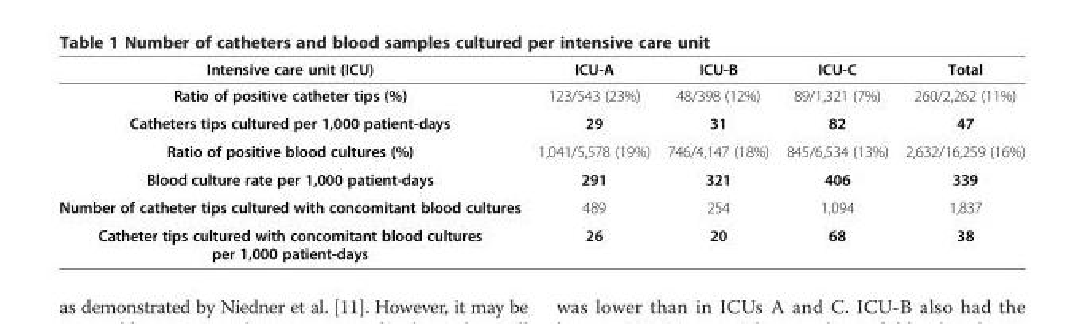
<table><thead><tr><td>Intensive care unit (ICU)</td><td>ICU-A</td><td>ICU-B</td><td>ICU-C</td><td>Total</td></tr></thead><tbody><tr><td>Ratio of positive catheter tips (%)</td><td>123/543 (23%)</td><td>48/398 (12%)</td><td>89/1,321 (7%)</td><td>260/2,262 (11%)</td></tr><tr><td>Catheters tips cultured per 1,000 patient-days</td><td>29</td><td>31</td><td>82</td><td>47</td></tr><tr><td>Ratio of positive blood cultures (%)</td><td>1,041/5,578 (19%)</td><td>746/4,147 (18%)</td><td>845/6,534 (13%)</td><td>2,632/16,259 (16%)</td></tr><tr><td>Blood culture rate per 1,000 patient-days</td><td>291</td><td>321</td><td>406</td><td>339</td></tr><tr><td>Number of catheter tips cultured with concomitant blood cultures</td><td>489</td><td>254</td><td>1,094</td><td>1,837</td></tr><tr><td>Catheter tips cultured with concomitant blood cultures per 1,000 patient-days</td><td>26</td><td>20</td><td>68</td><td>38</td></tr></tbody></table>